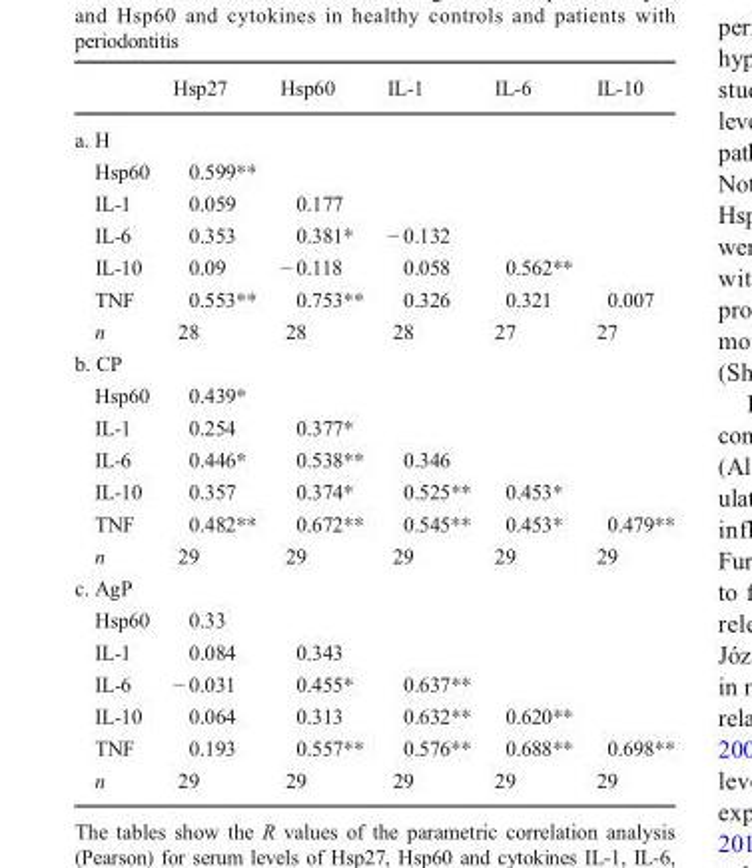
<table><thead><tr><td></td><td>Hsp27</td><td>Hsp60</td><td>IL-1</td><td>IL-6</td><td>IL-10</td></tr></thead><tbody><tr><td colspan="6">a. H</td></tr><tr><td>Hsp60</td><td>0.599**</td><td></td><td></td><td></td><td></td></tr><tr><td>IL-1</td><td>0.059</td><td>0.177</td><td></td><td></td><td></td></tr><tr><td>IL-6</td><td>0.353</td><td>0.381*</td><td>− 0.132</td><td></td><td></td></tr><tr><td>IL-10</td><td>0.09</td><td>− 0.118</td><td>0.058</td><td>0.562**</td><td></td></tr><tr><td>TNF</td><td>0.553**</td><td>0.753**</td><td>0.326</td><td>0.321</td><td>0.007</td></tr><tr><td>n</td><td>28</td><td>28</td><td>28</td><td>27</td><td>27</td></tr><tr><td colspan="6">b. CP</td></tr><tr><td>Hsp60</td><td>0.439*</td><td></td><td></td><td></td><td></td></tr><tr><td>IL-1</td><td>0.254</td><td>0.377*</td><td></td><td></td><td></td></tr><tr><td>IL-6</td><td>0.446*</td><td>0.538**</td><td>0.346</td><td></td><td></td></tr><tr><td>IL-10</td><td>0.357</td><td>0.374*</td><td>0.525**</td><td>0.453*</td><td></td></tr><tr><td>TNF</td><td>0.482**</td><td>0.672**</td><td>0.545**</td><td>0.453*</td><td>0.479**</td></tr><tr><td>n</td><td>29</td><td>29</td><td>29</td><td>29</td><td>29</td></tr><tr><td colspan="6">c. AgP</td></tr><tr><td>Hsp60</td><td>0.33</td><td></td><td></td><td></td><td></td></tr><tr><td>IL-1</td><td>0.084</td><td>0.343</td><td></td><td></td><td></td></tr><tr><td>IL-6</td><td>− 0.031</td><td>0.455*</td><td>0.637**</td><td></td><td></td></tr><tr><td>IL-10</td><td>0.064</td><td>0.313</td><td>0.632**</td><td>0.620**</td><td></td></tr><tr><td>TNF</td><td>0.193</td><td>0.557**</td><td>0.576**</td><td>0.688**</td><td>0.698**</td></tr><tr><td>n</td><td>29</td><td>29</td><td>29</td><td>29</td><td>29</td></tr></tbody></table>